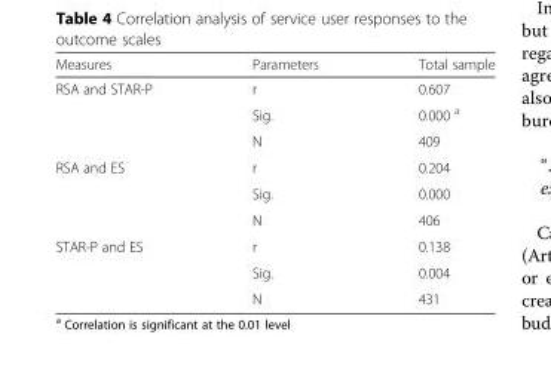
<table><thead><tr><td>Measures</td><td>Parameters</td><td>Total sample</td></tr></thead><tbody><tr><td rowspan="3">RSA and STAR-P</td><td>r</td><td>0.607</td></tr><tr><td>Sig.</td><td>0.000 <sup>a</sup></td></tr><tr><td>N</td><td>409</td></tr><tr><td rowspan="3">RSA and ES</td><td>r</td><td>0.204</td></tr><tr><td>Sig.</td><td>0.000</td></tr><tr><td>N</td><td>406</td></tr><tr><td rowspan="3">STAR-P and ES</td><td>r</td><td>0.138</td></tr><tr><td>Sig.</td><td>0.004</td></tr><tr><td>N</td><td>431</td></tr></tbody></table>